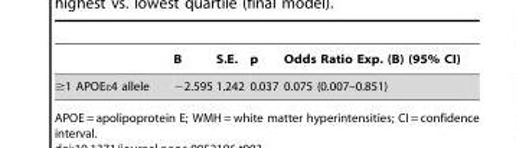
<table><thead><tr><td></td><td>B</td><td>S.E.</td><td>p</td><td>Odds Ratio Exp. (B) (95% CI)</td></tr></thead><tbody><tr><td>≥1 APOEε4 allele</td><td>−2.595</td><td>1.242</td><td>0.037</td><td>0.075 (0.007–0.851)</td></tr></tbody></table>